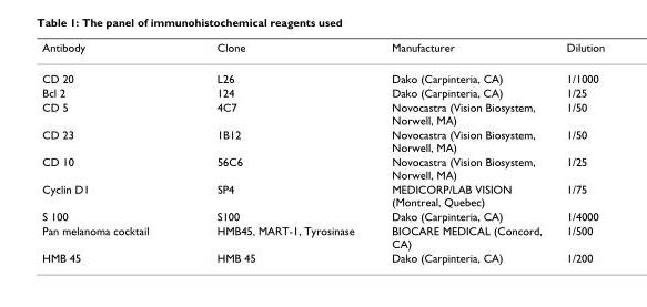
<table><thead><tr><td>Antibody</td><td>Clone</td><td>Manufacturer</td><td>Dilution</td></tr></thead><tbody><tr><td>CD 20</td><td>L26</td><td>Dako (Carpinteria, CA)</td><td>1/1000</td></tr><tr><td>Bcl 2</td><td>124</td><td>Dako (Carpinteria, CA)</td><td>1/25</td></tr><tr><td>CD 5</td><td>4C7</td><td>Novocastra (Vision Biosystem, Norwell, MA)</td><td>1/50</td></tr><tr><td>CD 23</td><td>1B12</td><td>Novocastra (Vision Biosystem, Norwell, MA)</td><td>1/50</td></tr><tr><td>CD 10</td><td>56C6</td><td>Novocastra (Vision Biosystem, Norwell, MA)</td><td>1/25</td></tr><tr><td>Cyclin D1</td><td>SP4</td><td>MEDICORP/LAB VISION (Montreal, Quebec)</td><td>1/75</td></tr><tr><td>S 100</td><td>S100</td><td>Dako (Carpinteria, CA)</td><td>1/4000</td></tr><tr><td>Pan melanoma cocktail</td><td>HMB45, MART-1, Tyrosinase</td><td>BIOCARE MEDICAL (Concord, CA)</td><td>1/500</td></tr><tr><td>HMB 45</td><td>HMB 45</td><td>Dako (Carpinteria, CA)</td><td>1/200</td></tr></tbody></table>